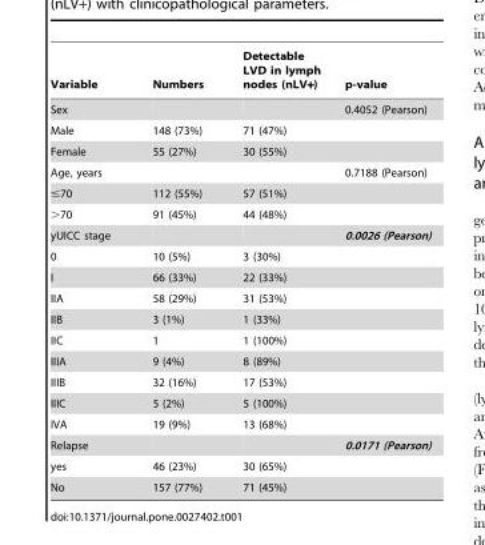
<table><thead><tr><td>Variable</td><td>Numbers</td><td>Detectable LVD in lymph nodes (nLV+)</td><td>p-value</td></tr></thead><tbody><tr><td>Sex</td><td></td><td></td><td>0.4052 (Pearson)</td></tr><tr><td>Male</td><td>148 (73%)</td><td>71 (47%)</td><td></td></tr><tr><td>Female</td><td>55 (27%)</td><td>30 (55%)</td><td></td></tr><tr><td>Age, years</td><td></td><td></td><td>0.7188 (Pearson)</td></tr><tr><td>≤70</td><td>112 (55%)</td><td>57 (51%)</td><td></td></tr><tr><td>&gt;70</td><td>91 (45%)</td><td>44 (48%)</td><td></td></tr><tr><td>yUICC stage</td><td></td><td></td><td>0.0026 (Pearson)</td></tr><tr><td>0</td><td>10 (5%)</td><td>3 (30%)</td><td></td></tr><tr><td>I</td><td>66 (33%)</td><td>22 (33%)</td><td></td></tr><tr><td>IIA</td><td>58 (29%)</td><td>31 (53%)</td><td></td></tr><tr><td>IIB</td><td>3 (1%)</td><td>1 (33%)</td><td></td></tr><tr><td>IIC</td><td>1</td><td>1 (100%)</td><td></td></tr><tr><td>IIIA</td><td>9 (4%)</td><td>8 (89%)</td><td></td></tr><tr><td>IIIB</td><td>32 (16%)</td><td>17 (53%)</td><td></td></tr><tr><td>IIIC</td><td>5 (2%)</td><td>5 (100%)</td><td></td></tr><tr><td>IVA</td><td>19 (9%)</td><td>13 (68%)</td><td></td></tr><tr><td>Relapse</td><td></td><td></td><td>0.0171 (Pearson)</td></tr><tr><td>yes</td><td>46 (23%)</td><td>30 (65%)</td><td></td></tr><tr><td>No</td><td>157 (77%)</td><td>71 (45%)</td><td></td></tr></tbody></table>